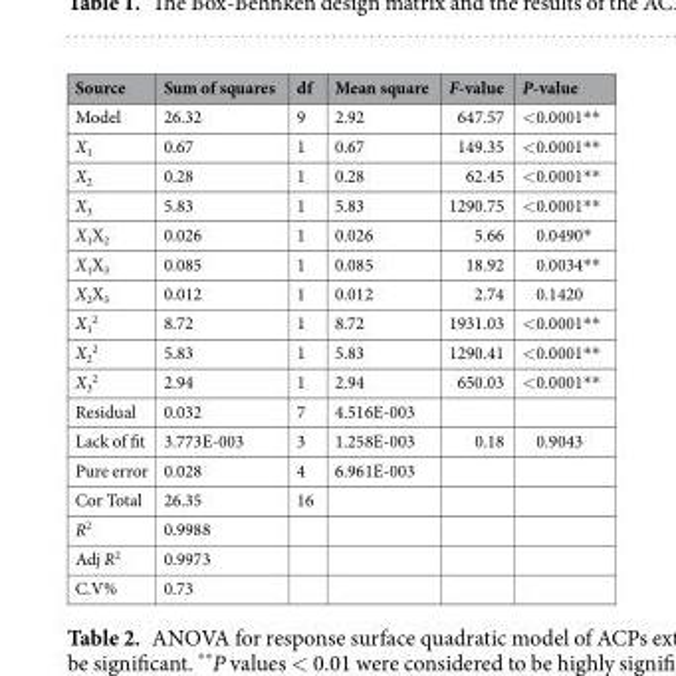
<table><thead><tr><td>Source</td><td>Sum of squares</td><td>df</td><td>Mean square</td><td>F-value</td><td>P-value</td></tr></thead><tbody><tr><td>Model</td><td>26.32</td><td>9</td><td>2.92</td><td>647.57</td><td>&lt;0.0001**</td></tr><tr><td>X<sub>1</sub></td><td>0.67</td><td>1</td><td>0.67</td><td>149.35</td><td>&lt;0.0001**</td></tr><tr><td>X<sub>2</sub></td><td>0.28</td><td>1</td><td>0.28</td><td>62.45</td><td>&lt;0.0001**</td></tr><tr><td>X<sub>3</sub></td><td>5.83</td><td>1</td><td>5.83</td><td>1290.75</td><td>&lt;0.0001**</td></tr><tr><td>X<sub>1</sub>X<sub>2</sub></td><td>0.026</td><td>1</td><td>0.026</td><td>5.66</td><td>0.0490*</td></tr><tr><td>X<sub>1</sub>X<sub>3</sub></td><td>0.085</td><td>1</td><td>0.085</td><td>18.92</td><td>0.0034**</td></tr><tr><td>X<sub>2</sub>X<sub>3</sub></td><td>0.012</td><td>1</td><td>0.012</td><td>2.74</td><td>0.1420</td></tr><tr><td>X<sub>1</sub> <sup>2</sup></td><td>8.72</td><td>1</td><td>8.72</td><td>1931.03</td><td>&lt;0.0001**</td></tr><tr><td>X<sub>2</sub> <sup>2</sup></td><td>5.83</td><td>1</td><td>5.83</td><td>1290.41</td><td>&lt;0.0001**</td></tr><tr><td>X<sub>3</sub> <sup>2</sup></td><td>2.94</td><td>1</td><td>2.94</td><td>650.03</td><td>&lt;0.0001**</td></tr><tr><td>Residual</td><td>0.032</td><td>7</td><td>4.516E-003</td><td></td><td></td></tr><tr><td>Lack of fit</td><td>3.773E-003</td><td>3</td><td>1.258E-003</td><td>0.18</td><td>0.9043</td></tr><tr><td>Pure error</td><td>0.028</td><td>4</td><td>6.961E-003</td><td></td><td></td></tr><tr><td>Cor Total</td><td>26.35</td><td>16</td><td></td><td></td><td></td></tr><tr><td>R<sup>2</sup></td><td>0.9988</td><td></td><td></td><td></td><td></td></tr><tr><td>Adj R<sup>2</sup></td><td>0.9973</td><td></td><td></td><td></td><td></td></tr><tr><td>C.V%</td><td>0.73</td><td></td><td></td><td></td><td></td></tr></tbody></table>